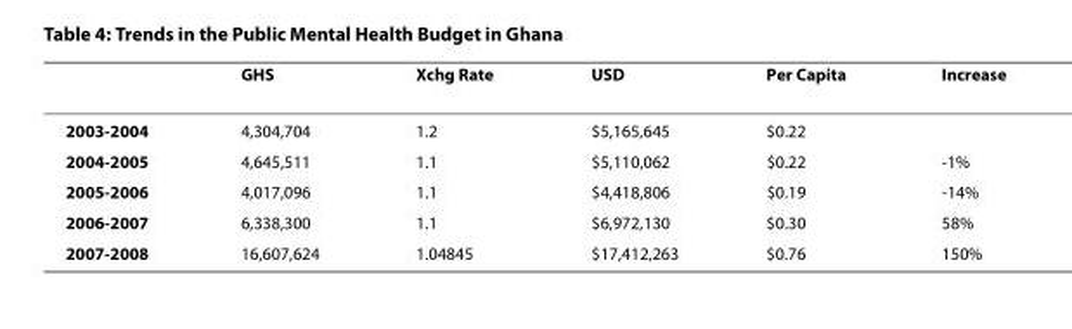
<table><thead><tr><td></td><td>GHS</td><td>Xchg Rate</td><td>USD</td><td>Per Capita</td><td>Increase</td></tr></thead><tbody><tr><td>2003-2004</td><td>4,304,704</td><td>1.2</td><td>$5,165,645</td><td>$0.22</td><td></td></tr><tr><td>2004-2005</td><td>4,645,511</td><td>1.1</td><td>$5,110,062</td><td>$0.22</td><td>-1%</td></tr><tr><td>2005-2006</td><td>4,017,096</td><td>1.1</td><td>$4,418,806</td><td>$0.19</td><td>-14%</td></tr><tr><td>2006-2007</td><td>6,338,300</td><td>1.1</td><td>$6,972,130</td><td>$0.30</td><td>58%</td></tr><tr><td>2007-2008</td><td>16,607,624</td><td>1.04845</td><td>$17,412,263</td><td>$0.76</td><td>150%</td></tr></tbody></table>